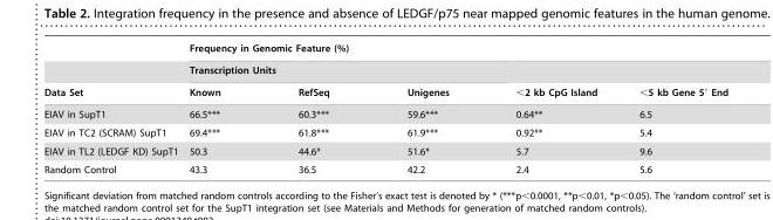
<table><thead><tr><td rowspan="3">Data Set</td><td colspan="5">Frequency in Genomic Feature (%)</td></tr><tr><td colspan="3">Transcription Units</td><td rowspan="2">&lt;2 kb CpG Island</td><td rowspan="2">&lt;5 kb Gene 5′ End</td></tr><tr><td>Known</td><td>RefSeq</td><td>Unigenes</td></tr></thead><tbody><tr><td>EIAV in SupT1</td><td>66.5***</td><td>60.3***</td><td>59.6***</td><td>0.64**</td><td>6.5</td></tr><tr><td>EIAV in TC2 (SCRAM) SupT1</td><td>69.4***</td><td>61.8***</td><td>61.9***</td><td>0.92**</td><td>5.4</td></tr><tr><td>EIAV in TL2 (LEDGF KD) SupT1</td><td>50.3</td><td>44.6*</td><td>51.6*</td><td>5.7</td><td>9.6</td></tr><tr><td>Random Control</td><td>43.3</td><td>36.5</td><td>42.2</td><td>2.4</td><td>5.6</td></tr></tbody></table>